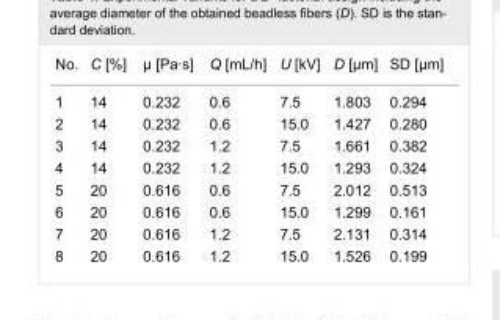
<table><tbody><tr><td>No.</td><td>C [%]</td><td>µ [Pa·s]</td><td>Q [mL/h]</td><td>U [kV]</td><td>D [μm]</td><td>SD [μm]</td></tr><tr><td>1</td><td>14</td><td>0.232</td><td>0.6</td><td>7.5</td><td>1.803</td><td>0.294</td></tr><tr><td>2</td><td>14</td><td>0.232</td><td>0.6</td><td>15.0</td><td>1.427</td><td>0.280</td></tr><tr><td>3</td><td>14</td><td>0.232</td><td>1.2</td><td>7.5</td><td>1.661</td><td>0.382</td></tr><tr><td>4</td><td>14</td><td>0.232</td><td>1.2</td><td>15.0</td><td>1.293</td><td>0.324</td></tr><tr><td>5</td><td>20</td><td>0.616</td><td>0.6</td><td>7.5</td><td>2.012</td><td>0.513</td></tr><tr><td>6</td><td>20</td><td>0.616</td><td>0.6</td><td>15.0</td><td>1.299</td><td>0.161</td></tr><tr><td>7</td><td>20</td><td>0.616</td><td>1.2</td><td>7.5</td><td>2.131</td><td>0.314</td></tr><tr><td>8</td><td>20</td><td>0.616</td><td>1.2</td><td>15.0</td><td>1.526</td><td>0.199</td></tr></tbody></table>